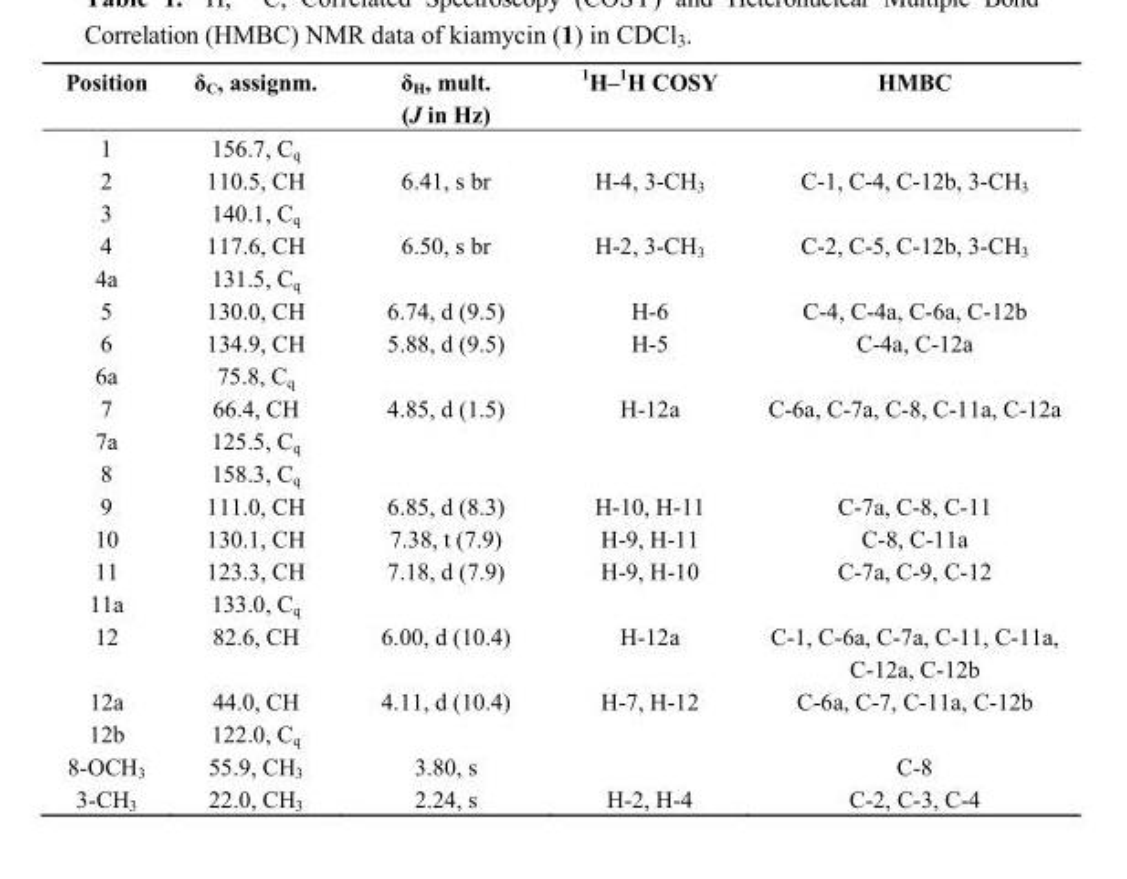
<table><thead><tr><td>Position</td><td>δ<sub>C</sub>, assignm.</td><td>δ<sub>H</sub>, mult. (J in Hz)</td><td><sup>1</sup>H–<sup>1</sup>H COSY</td><td>HMBC</td></tr></thead><tbody><tr><td>1</td><td>156.7, C<sub>q</sub></td><td></td><td></td><td></td></tr><tr><td>2</td><td>110.5, CH</td><td>6.41, s br</td><td>H-4, 3-CH<sub>3</sub></td><td>C-1, C-4, C-12b, 3-CH<sub>3</sub></td></tr><tr><td>3</td><td>140.1, C<sub>q</sub></td><td></td><td></td><td></td></tr><tr><td>4</td><td>117.6, CH</td><td>6.50, s br</td><td>H-2, 3-CH<sub>3</sub></td><td>C-2, C-5, C-12b, 3-CH<sub>3</sub></td></tr><tr><td>4a</td><td>131.5, C<sub>q</sub></td><td></td><td></td><td></td></tr><tr><td>5</td><td>130.0, CH</td><td>6.74, d (9.5)</td><td>H-6</td><td>C-4, C-4a, C-6a, C-12b</td></tr><tr><td>6</td><td>134.9, CH</td><td>5.88, d (9.5)</td><td>H-5</td><td>C-4a, C-12a</td></tr><tr><td>6a</td><td>75.8, C<sub>q</sub></td><td></td><td></td><td></td></tr><tr><td>7</td><td>66.4, CH</td><td>4.85, d (1.5)</td><td>H-12a</td><td>C-6a, C-7a, C-8, C-11a, C-12a</td></tr><tr><td>7a</td><td>125.5, C<sub>q</sub></td><td></td><td></td><td></td></tr><tr><td>8</td><td>158.3, C<sub>q</sub></td><td></td><td></td><td></td></tr><tr><td>9</td><td>111.0, CH</td><td>6.85, d (8.3)</td><td>H-10, H-11</td><td>C-7a, C-8, C-11</td></tr><tr><td>10</td><td>130.1, CH</td><td>7.38, t (7.9)</td><td>H-9, H-11</td><td>C-8, C-11a</td></tr><tr><td>11</td><td>123.3, CH</td><td>7.18, d (7.9)</td><td>H-9, H-10</td><td>C-7a, C-9, C-12</td></tr><tr><td>11a</td><td>133.0, C<sub>q</sub></td><td></td><td></td><td></td></tr><tr><td>12</td><td>82.6, CH</td><td>6.00, d (10.4)</td><td>H-12a</td><td>C-1, C-6a, C-7a, C-11, C-11a, C-12a, C-12b</td></tr><tr><td>12a</td><td>44.0, CH</td><td>4.11, d (10.4)</td><td>H-7, H-12</td><td>C-6a, C-7, C-11a, C-12b</td></tr><tr><td>12b</td><td>122.0, C<sub>q</sub></td><td></td><td></td><td></td></tr><tr><td>8-OCH<sub>3</sub></td><td>55.9, CH<sub>3</sub></td><td>3.80, s</td><td></td><td>C-8</td></tr><tr><td>3-CH<sub>3</sub></td><td>22.0, CH<sub>3</sub></td><td>2.24, s</td><td>H-2, H-4</td><td>C-2, C-3, C-4</td></tr></tbody></table>